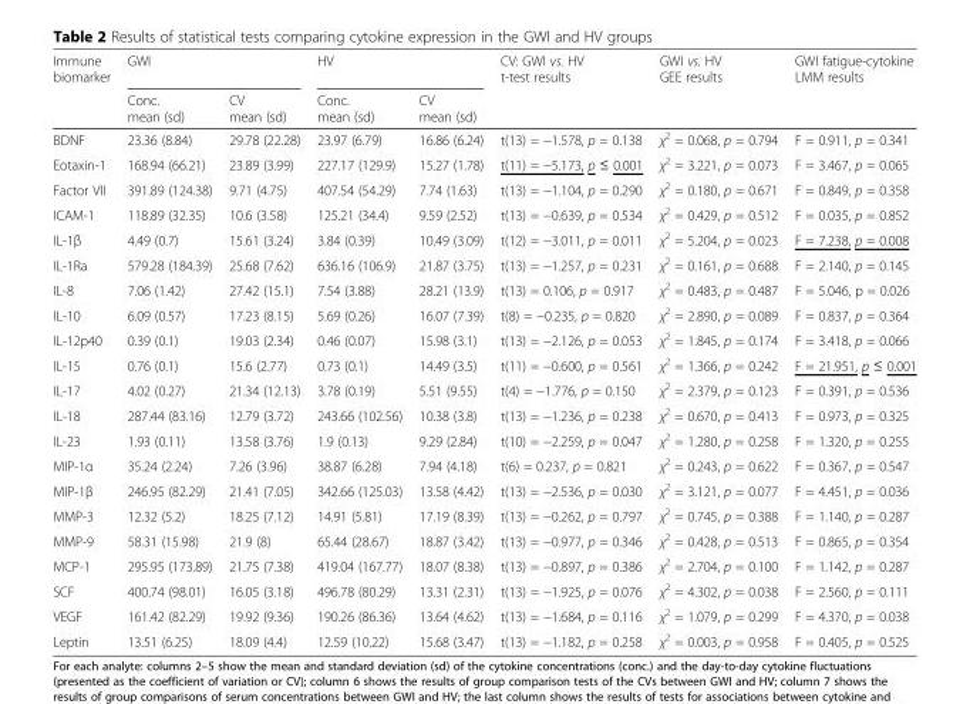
<table><thead><tr><td rowspan="2">Immune biomarker</td><td colspan="2">GWI</td><td colspan="2">HV</td><td rowspan="2">CV: GWI vs. HV t-test results</td><td rowspan="2">GWI vs. HV GEE results</td><td rowspan="2">GWI fatigue-cytokine LMM results</td></tr><tr><td>Conc. mean (sd)</td><td>CV mean (sd)</td><td>Conc. mean (sd)</td><td>CV mean (sd)</td></tr></thead><tbody><tr><td>BDNF</td><td>23.36 (8.84)</td><td>29.78 (22.28)</td><td>23.97 (6.79)</td><td>16.86 (6.24)</td><td>t(13) = −1.578, p = 0.138</td><td>χ<sup>2</sup> = 0.068, p = 0.794</td><td>F = 0.911, p = 0.341</td></tr><tr><td>Eotaxin-1</td><td>168.94 (66.21)</td><td>23.89 (3.99)</td><td>227.17 (129.9)</td><td>15.27 (1.78)</td><td>t(11) = −5.173, p ≤ 0.001</td><td>χ<sup>2</sup> = 3.221, p = 0.073</td><td>F = 3.467, p = 0.065</td></tr><tr><td>Factor VII</td><td>391.89 (124.38)</td><td>9.71 (4.75)</td><td>407.54 (54.29)</td><td>7.74 (1.63)</td><td>t(13) = −1.104, p = 0.290</td><td>χ<sup>2</sup> = 0.180, p = 0.671</td><td>F = 0.849, p = 0.358</td></tr><tr><td>ICAM-1</td><td>118.89 (32.35)</td><td>10.6 (3.58)</td><td>125.21 (34.4)</td><td>9.59 (2.52)</td><td>t(13) = −0.639, p = 0.534</td><td>χ<sup>2</sup> = 0.429, p = 0.512</td><td>F = 0.035, p = 0.852</td></tr><tr><td>IL-1β</td><td>4.49 (0.7)</td><td>15.61 (3.24)</td><td>3.84 (0.39)</td><td>10.49 (3.09)</td><td>t(12) = −3.011, p = 0.011</td><td>χ<sup>2</sup> = 5.204, p = 0.023</td><td>F = 7.238, p = 0.008</td></tr><tr><td>IL-1Ra</td><td>579.28 (184.39)</td><td>25.68 (7.62)</td><td>636.16 (106.9)</td><td>21.87 (3.75)</td><td>t(13) = −1.257, p = 0.231</td><td>χ<sup>2</sup> = 0.161, p = 0.688</td><td>F = 2.140, p = 0.145</td></tr><tr><td>IL-8</td><td>7.06 (1.42)</td><td>27.42 (15.1)</td><td>7.54 (3.88)</td><td>28.21 (13.9)</td><td>t(13) = 0.106, p = 0.917</td><td>χ<sup>2</sup> = 0.483, p = 0.487</td><td>F = 5.046, p = 0.026</td></tr><tr><td>IL-10</td><td>6.09 (0.57)</td><td>17.23 (8.15)</td><td>5.69 (0.26)</td><td>16.07 (7.39)</td><td>t(8) = −0.235, p = 0.820</td><td>χ<sup>2</sup> = 2.890, p = 0.089</td><td>F = 0.837, p = 0.364</td></tr><tr><td>IL-12p40</td><td>0.39 (0.1)</td><td>19.03 (2.34)</td><td>0.46 (0.07)</td><td>15.98 (3.1)</td><td>t(13) = −2.126, p = 0.053</td><td>χ<sup>2</sup> = 1.845, p = 0.174</td><td>F = 3.418, p = 0.066</td></tr><tr><td>IL-15</td><td>0.76 (0.1)</td><td>15.6 (2.77)</td><td>0.73 (0.1)</td><td>14.49 (3.5)</td><td>t(11) = −0.600, p = 0.561</td><td>χ<sup>2</sup> = 1.366, p = 0.242</td><td>F = 21.951, p ≤ 0.001</td></tr><tr><td>IL-17</td><td>4.02 (0.27)</td><td>21.34 (12.13)</td><td>3.78 (0.19)</td><td>5.51 (9.55)</td><td>t(4) = −1.776, p = 0.150</td><td>χ<sup>2</sup> = 2.379, p = 0.123</td><td>F = 0.391, p = 0.536</td></tr><tr><td>IL-18</td><td>287.44 (83.16)</td><td>12.79 (3.72)</td><td>243.66 (102.56)</td><td>10.38 (3.8)</td><td>t(13) = −1.236, p = 0.238</td><td>χ<sup>2</sup> = 0.670, p = 0.413</td><td>F = 0.973, p = 0.325</td></tr><tr><td>IL-23</td><td>1.93 (0.11)</td><td>13.58 (3.76)</td><td>1.9 (0.13)</td><td>9.29 (2.84)</td><td>t(10) = −2.259, p = 0.047</td><td>χ<sup>2</sup> = 1.280, p = 0.258</td><td>F = 1.320, p = 0.255</td></tr><tr><td>MIP-1α</td><td>35.24 (2.24)</td><td>7.26 (3.96)</td><td>38.87 (6.28)</td><td>7.94 (4.18)</td><td>t(6) = 0.237, p = 0.821</td><td>χ<sup>2</sup> = 0.243, p = 0.622</td><td>F = 0.367, p = 0.547</td></tr><tr><td>MIP-1β</td><td>246.95 (82.29)</td><td>21.41 (7.05)</td><td>342.66 (125.03)</td><td>13.58 (4.42)</td><td>t(13) = −2.536, p = 0.030</td><td>χ<sup>2</sup> = 3.121, p = 0.077</td><td>F = 4.451, p = 0.036</td></tr><tr><td>MMP-3</td><td>12.32 (5.2)</td><td>18.25 (7.12)</td><td>14.91 (5.81)</td><td>17.19 (8.39)</td><td>t(13) = −0.262, p = 0.797</td><td>χ<sup>2</sup> = 0.745, p = 0.388</td><td>F = 1.140, p = 0.287</td></tr><tr><td>MMP-9</td><td>58.31 (15.98)</td><td>21.9 (8)</td><td>65.44 (28.67)</td><td>18.87 (3.42)</td><td>t(13) = −0.977, p = 0.346</td><td>χ<sup>2</sup> = 0.428, p = 0.513</td><td>F = 0.865, p = 0.354</td></tr><tr><td>MCP-1</td><td>295.95 (173.89)</td><td>21.75 (7.38)</td><td>419.04 (167.77)</td><td>18.07 (8.38)</td><td>t(13) = −0.897, p = 0.386</td><td>χ<sup>2</sup> = 2.704, p = 0.100</td><td>F = 1.142, p = 0.287</td></tr><tr><td>SCF</td><td>400.74 (98.01)</td><td>16.05 (3.18)</td><td>496.78 (80.29)</td><td>13.31 (2.31)</td><td>t(13) = −1.925, p = 0.076</td><td>χ<sup>2</sup> = 4.302, p = 0.038</td><td>F = 2.560, p = 0.111</td></tr><tr><td>VEGF</td><td>161.42 (82.29)</td><td>19.92 (9.36)</td><td>190.26 (86.36)</td><td>13.64 (4.62)</td><td>t(13) = −1.684, p = 0.116</td><td>χ<sup>2</sup> = 1.079, p = 0.299</td><td>F = 4.370, p = 0.038</td></tr><tr><td>Leptin</td><td>13.51 (6.25)</td><td>18.09 (4.4)</td><td>12.59 (10.22)</td><td>15.68 (3.47)</td><td>t(13) = −1.182, p = 0.258</td><td>χ<sup>2</sup> = 0.003, p = 0.958</td><td>F = 0.405, p = 0.525</td></tr></tbody></table>